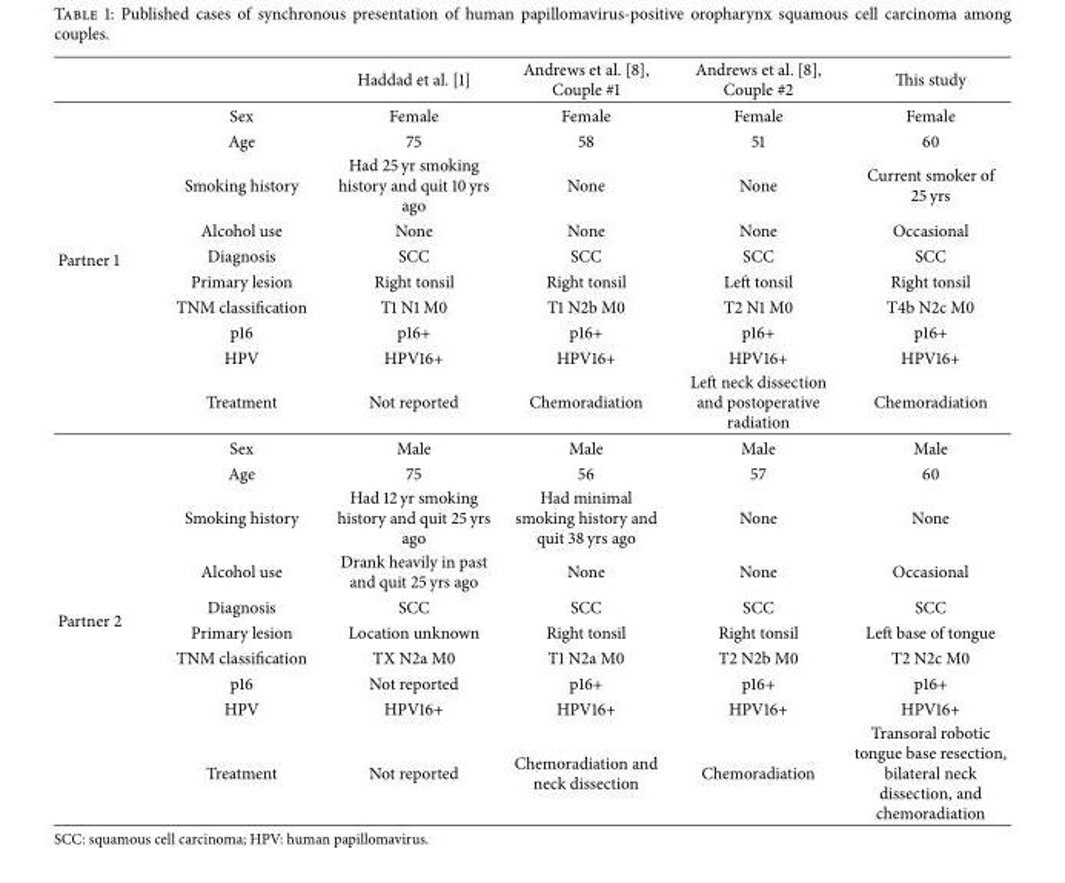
<table><thead><tr><td></td><td></td><td>Haddad et al. [1]</td><td>Andrews et al. [8], Couple #1</td><td>Andrews et al. [8], Couple #2</td><td>This study</td></tr></thead><tbody><tr><td rowspan="10">Partner 1</td><td>Sex</td><td>Female</td><td>Female</td><td>Female</td><td>Female</td></tr><tr><td>Age</td><td>75</td><td>58</td><td>51</td><td>60</td></tr><tr><td>Smoking history</td><td>Had 25 yr smoking history and quit 10 yrs ago</td><td>None</td><td>None</td><td>Current smoker of 25 yrs</td></tr><tr><td>Alcohol use</td><td>None</td><td>None</td><td>None</td><td>Occasional</td></tr><tr><td>Diagnosis</td><td>SCC</td><td>SCC</td><td>SCC</td><td>SCC</td></tr><tr><td>Primary lesion</td><td>Right tonsil</td><td>Right tonsil</td><td>Left tonsil</td><td>Right tonsil</td></tr><tr><td>TNM classification</td><td>T1 N1 M0</td><td>T1 N2b M0</td><td>T2 N1 M0</td><td>T4b N2c M0</td></tr><tr><td>p16</td><td>p16+</td><td>p16+</td><td>p16+</td><td>p16+</td></tr><tr><td>HPV</td><td>HPV16+</td><td>HPV16+</td><td>HPV16+</td><td>HPV16+</td></tr><tr><td>Treatment</td><td>Not reported</td><td>Chemoradiation</td><td>Left neck dissection and postoperative radiation</td><td>Chemoradiation</td></tr><tr><td rowspan="10">Partner 2</td><td>Sex</td><td>Male</td><td>Male</td><td>Male</td><td>Male</td></tr><tr><td>Age</td><td>75</td><td>56</td><td>57</td><td>60</td></tr><tr><td>Smoking history</td><td>Had 12 yr smoking history and quit 25 yrs ago</td><td>Had minimal smoking history and quit 38 yrs ago</td><td>None</td><td>None</td></tr><tr><td>Alcohol use</td><td>Drank heavily in past and quit 25 yrs ago</td><td>None</td><td>None</td><td>Occasional</td></tr><tr><td>Diagnosis</td><td>SCC</td><td>SCC</td><td>SCC</td><td>SCC</td></tr><tr><td>Primary lesion</td><td>Location unknown</td><td>Right tonsil</td><td>Right tonsil</td><td>Left base of tongue</td></tr><tr><td>TNM classification</td><td>TX N2a M0</td><td>T1 N2a M0</td><td>T2 N2b M0</td><td>T2 N2c M0</td></tr><tr><td>p16</td><td>Not reported</td><td>p16+</td><td>p16+</td><td>p16+</td></tr><tr><td>HPV</td><td>HPV16+</td><td>HPV16+</td><td>HPV16+</td><td>HPV16+</td></tr><tr><td>Treatment</td><td>Not reported</td><td>Chemoradiation and neck dissection</td><td>Chemoradiation</td><td>Transoral robotic tongue base resection, bilateral neck dissection, and chemoradiation</td></tr></tbody></table>